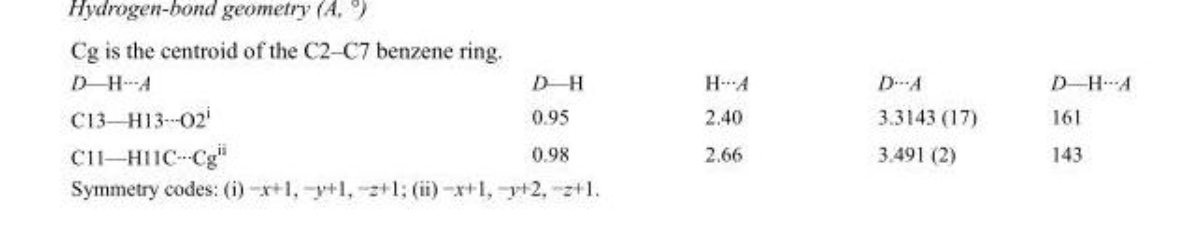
<table><tbody><tr><td>D—H···A</td><td>D—H</td><td>H···A</td><td>D···A</td><td>D—H···A</td></tr><tr><td>C13—H13···O2<sup>i</sup></td><td>0.95</td><td>2.40</td><td>3.3143 (17)</td><td>161</td></tr><tr><td>C11—H11C···Cg<sup>ii</sup></td><td>0.98</td><td>2.66</td><td>3.491 (2)</td><td>143</td></tr></tbody></table>